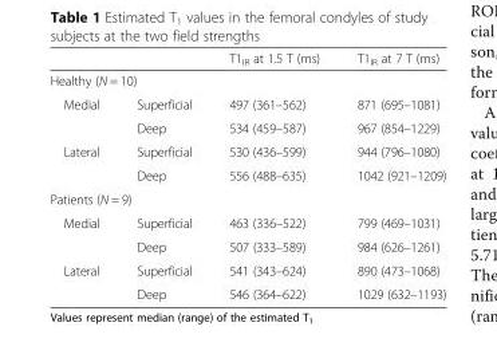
<table><thead><tr><td></td><td></td><td>T1<sub>IR</sub> at 1.5 T (ms)</td><td>T1<sub>IR</sub> at 7 T (ms)</td></tr></thead><tbody><tr><td colspan="4">Healthy (N = 10)</td></tr><tr><td rowspan="2">Medial</td><td>Superficial</td><td>497 (361–562)</td><td>871 (695–1081)</td></tr><tr><td>Deep</td><td>534 (459–587)</td><td>967 (854–1229)</td></tr><tr><td rowspan="2">Lateral</td><td>Superficial</td><td>530 (436–599)</td><td>944 (796–1080)</td></tr><tr><td>Deep</td><td>556 (488–635)</td><td>1042 (921–1209)</td></tr><tr><td colspan="4">Patients (N = 9)</td></tr><tr><td rowspan="2">Medial</td><td>Superficial</td><td>463 (336–522)</td><td>799 (469–1031)</td></tr><tr><td>Deep</td><td>507 (333–589)</td><td>984 (626–1261)</td></tr><tr><td rowspan="2">Lateral</td><td>Superficial</td><td>541 (343–624)</td><td>890 (473–1068)</td></tr><tr><td>Deep</td><td>546 (364–622)</td><td>1029 (632–1193)</td></tr></tbody></table>